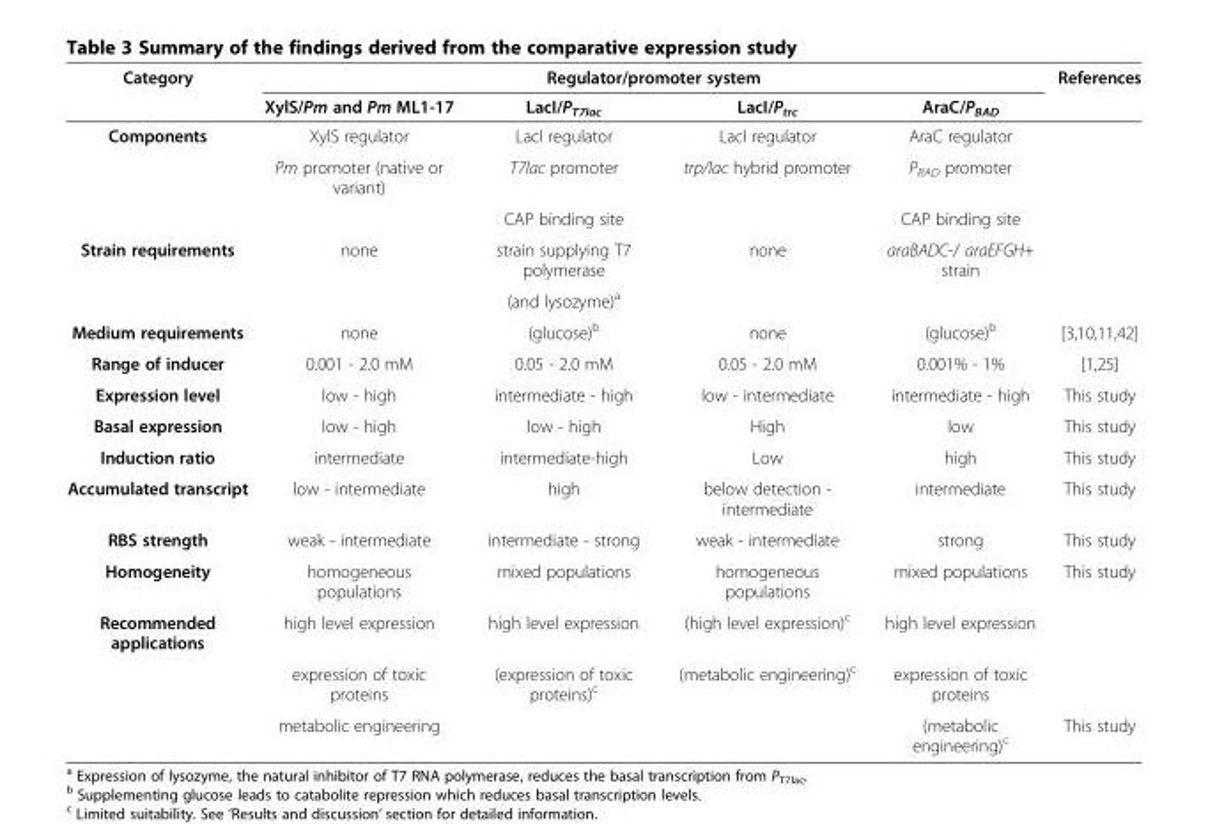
<table><thead><tr><td rowspan="2">Category</td><td colspan="4">Regulator/promoter system</td><td rowspan="2">References</td></tr><tr><td>XylS/Pm and Pm ML1-17</td><td>LacI/P<sub>T7lac</sub></td><td>LacI/P<sub>trc</sub></td><td>AraC/P<sub>BAD</sub></td></tr></thead><tbody><tr><td rowspan="3">Components</td><td>XylS regulator</td><td>LacI regulator</td><td>LacI regulator</td><td>AraC regulator</td><td></td></tr><tr><td>Pm promoter (native or variant)</td><td>T7lac promoter</td><td>trp/lac hybrid promoter</td><td>P<sub>BAD</sub> promoter</td><td></td></tr><tr><td></td><td>CAP binding site</td><td></td><td>CAP binding site</td><td></td></tr><tr><td rowspan="2">Strain requirements</td><td>none</td><td>strain supplying T7 polymerase</td><td>none</td><td>araBADC-/ araEFGH+ strain</td><td></td></tr><tr><td></td><td>(and lysozyme)<sup>a</sup></td><td></td><td></td><td></td></tr><tr><td>Medium requirements</td><td>none</td><td>(glucose)<sup>b</sup></td><td>none</td><td>(glucose)<sup>b</sup></td><td>[3,10,11,42]</td></tr><tr><td>Range of inducer</td><td>0.001 - 2.0 mM</td><td>0.05 - 2.0 mM</td><td>0.05 - 2.0 mM</td><td>0.001% - 1%</td><td>[1,25]</td></tr><tr><td>Expression level</td><td>low - high</td><td>intermediate - high</td><td>low - intermediate</td><td>intermediate - high</td><td>This study</td></tr><tr><td>Basal expression</td><td>low - high</td><td>low - high</td><td>High</td><td>low</td><td>This study</td></tr><tr><td>Induction ratio</td><td>intermediate</td><td>intermediate-high</td><td>Low</td><td>high</td><td>This study</td></tr><tr><td>Accumulated transcript</td><td>low - intermediate</td><td>high</td><td>below detection - intermediate</td><td>intermediate</td><td>This study</td></tr><tr><td>RBS strength</td><td>weak - intermediate</td><td>intermediate - strong</td><td>weak - intermediate</td><td>strong</td><td>This study</td></tr><tr><td>Homogeneity</td><td>homogeneous populations</td><td>mixed populations</td><td>homogeneous populations</td><td>mixed populations</td><td>This study</td></tr><tr><td rowspan="3">Recommended applications</td><td>high level expression</td><td>high level expression</td><td>(high level expression)<sup>c</sup></td><td>high level expression</td><td></td></tr><tr><td>expression of toxic proteins</td><td>(expression of toxic proteins)<sup>c</sup></td><td>(metabolic engineering)<sup>c</sup></td><td>expression of toxic proteins</td><td></td></tr><tr><td>metabolic engineering</td><td></td><td></td><td>(metabolic engineering)<sup>c</sup></td><td>This study</td></tr></tbody></table>